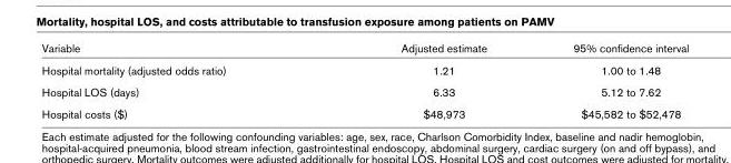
<table><thead><tr><td>Variable</td><td>Adjusted estimate</td><td>95% confidence interval</td></tr></thead><tbody><tr><td>Hospital mortality (adjusted odds ratio)</td><td>1.21</td><td>1.00 to 1.48</td></tr><tr><td>Hospital LOS (days)</td><td>6.33</td><td>5.12 to 7.62</td></tr><tr><td>Hospital costs ($)</td><td>$48,973</td><td>$45,582 to $52,478</td></tr></tbody></table>